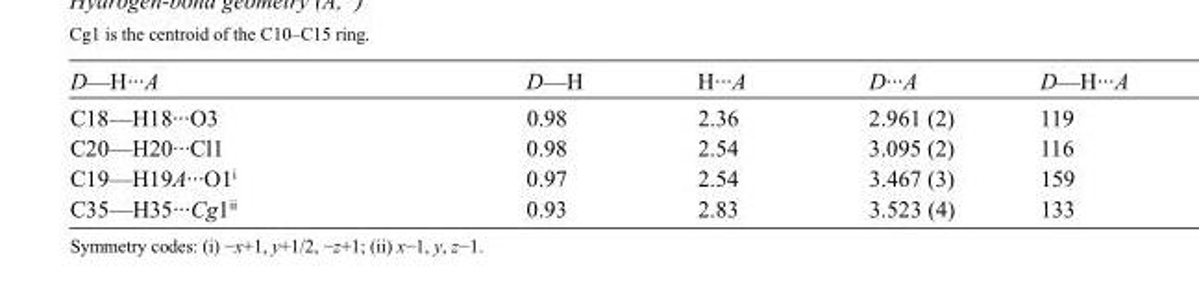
<table><tbody><tr><td>D—H···A</td><td>D—H</td><td>H···A</td><td>D···A</td><td>D—H···A</td></tr><tr><td>C18—H18···O3</td><td>0.98</td><td>2.36</td><td>2.961 (2)</td><td>119</td></tr><tr><td>C20—H20···Cl1</td><td>0.98</td><td>2.54</td><td>3.095 (2)</td><td>116</td></tr><tr><td>C19—H19A···O1<sup>i</sup></td><td>0.97</td><td>2.54</td><td>3.467 (3)</td><td>159</td></tr><tr><td>C35—H35···Cg1<sup>ii</sup></td><td>0.93</td><td>2.83</td><td>3.523 (4)</td><td>133</td></tr></tbody></table>